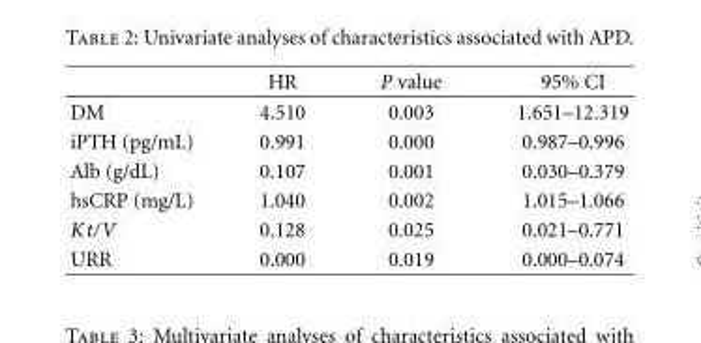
<table><thead><tr><td></td><td>HR</td><td>P value</td><td>95% CI</td></tr></thead><tbody><tr><td>DM</td><td>4.510</td><td>0.003</td><td>1.651–12.319</td></tr><tr><td>iPTH (pg/mL)</td><td>0.991</td><td>0.000</td><td>0.987–0.996</td></tr><tr><td>Alb (g/dL)</td><td>0.107</td><td>0.001</td><td>0.030–0.379</td></tr><tr><td>hsCRP (mg/L)</td><td>1.040</td><td>0.002</td><td>1.015–1.066</td></tr><tr><td>Kt/V</td><td>0.128</td><td>0.025</td><td>0.021–0.771</td></tr><tr><td>URR</td><td>0.000</td><td>0.019</td><td>0.000–0.074</td></tr></tbody></table>